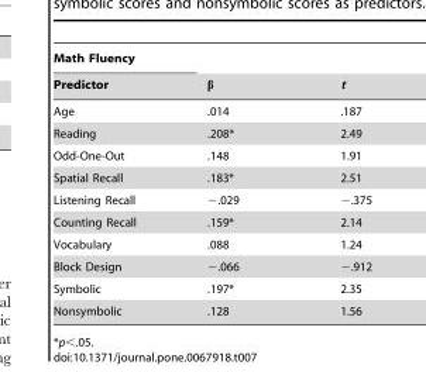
<table><thead><tr><td rowspan="2">Math Fluency Predictor</td><td rowspan="2">β</td><td rowspan="2">t</td></tr><tr></tr></thead><tbody><tr><td>Age</td><td>.014</td><td>.187</td></tr><tr><td>Reading</td><td>.208*</td><td>2.49</td></tr><tr><td>Odd-One-Out</td><td>.148</td><td>1.91</td></tr><tr><td>Spatial Recall</td><td>.183*</td><td>2.51</td></tr><tr><td>Listening Recall</td><td>−.029</td><td>−.375</td></tr><tr><td>Counting Recall</td><td>.159*</td><td>2.14</td></tr><tr><td>Vocabulary</td><td>.088</td><td>1.24</td></tr><tr><td>Block Design</td><td>−.066</td><td>−.912</td></tr><tr><td>Symbolic</td><td>.197*</td><td>2.35</td></tr><tr><td>Nonsymbolic</td><td>.128</td><td>1.56</td></tr></tbody></table>